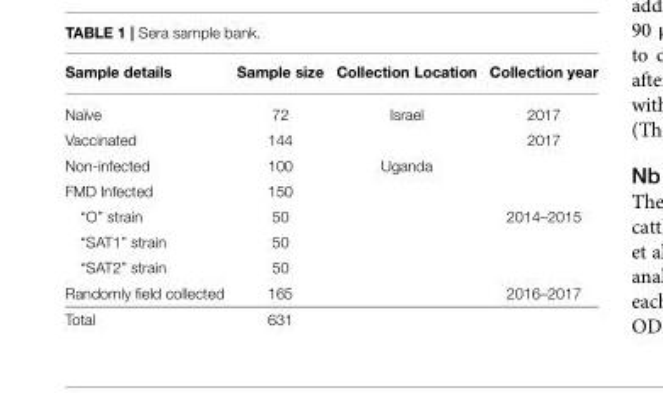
<table><thead><tr><td>Sample details</td><td>Sample size</td><td>Collection Location</td><td>Collection year</td></tr></thead><tbody><tr><td>Naïve</td><td>72</td><td>Israel</td><td>2017</td></tr><tr><td>Vaccinated</td><td>144</td><td></td><td>2017</td></tr><tr><td>Non-infected</td><td>100</td><td>Uganda</td><td></td></tr><tr><td>FMD Infected</td><td>150</td><td></td><td></td></tr><tr><td>“O” strain</td><td>50</td><td></td><td>2014–2015</td></tr><tr><td>“SAT1” strain</td><td>50</td><td></td><td></td></tr><tr><td>“SAT2” strain</td><td>50</td><td></td><td></td></tr><tr><td>Randomly field collected</td><td>165</td><td></td><td>2016–2017</td></tr><tr><td>Total</td><td>631</td><td></td><td></td></tr></tbody></table>